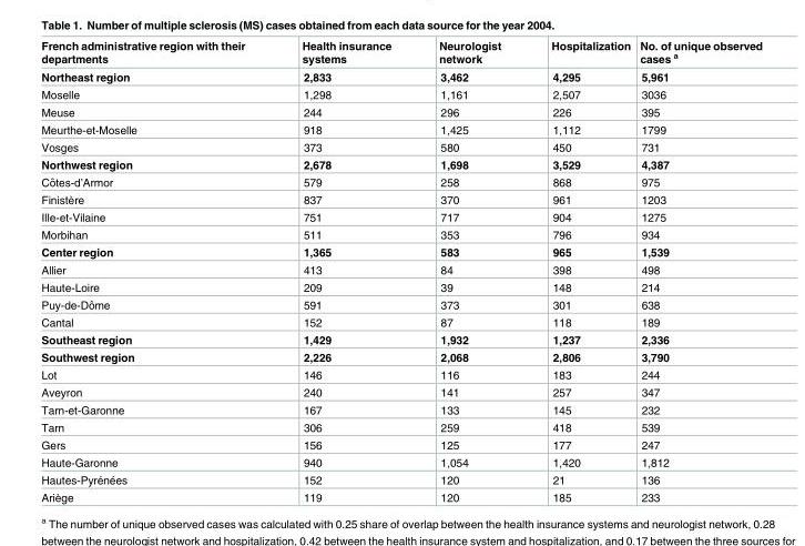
<table><thead><tr><td>French administrative region with their departments</td><td>Health insurance systems</td><td>Neurologist network</td><td>Hospitalization</td><td>No. of unique observed cases <sup>a</sup></td></tr></thead><tbody><tr><td>Northeast region</td><td>2,833</td><td>3,462</td><td>4,295</td><td>5,961</td></tr><tr><td>Moselle</td><td>1,298</td><td>1,161</td><td>2,507</td><td>3036</td></tr><tr><td>Meuse</td><td>244</td><td>296</td><td>226</td><td>395</td></tr><tr><td>Meurthe-et-Moselle</td><td>918</td><td>1,425</td><td>1,112</td><td>1799</td></tr><tr><td>Vosges</td><td>373</td><td>580</td><td>450</td><td>731</td></tr><tr><td>Northwest region</td><td>2,678</td><td>1,698</td><td>3,529</td><td>4,387</td></tr><tr><td>Coˆtes-d’Armor</td><td>579</td><td>258</td><td>868</td><td>975</td></tr><tr><td>Finistère</td><td>837</td><td>370</td><td>961</td><td>1203</td></tr><tr><td>Ille-et-Vilaine</td><td>751</td><td>717</td><td>904</td><td>1275</td></tr><tr><td>Morbihan</td><td>511</td><td>353</td><td>796</td><td>934</td></tr><tr><td>Center region</td><td>1,365</td><td>583</td><td>965</td><td>1,539</td></tr><tr><td>Allier</td><td>413</td><td>84</td><td>398</td><td>498</td></tr><tr><td>Haute-Loire</td><td>209</td><td>39</td><td>148</td><td>214</td></tr><tr><td>Puy-de-Doˆme</td><td>591</td><td>373</td><td>301</td><td>638</td></tr><tr><td>Cantal</td><td>152</td><td>87</td><td>118</td><td>189</td></tr><tr><td>Southeast region</td><td>1,429</td><td>1,932</td><td>1,237</td><td>2,336</td></tr><tr><td>Southwest region</td><td>2,226</td><td>2,068</td><td>2,806</td><td>3,790</td></tr><tr><td>Lot</td><td>146</td><td>116</td><td>183</td><td>244</td></tr><tr><td>Aveyron</td><td>240</td><td>141</td><td>257</td><td>347</td></tr><tr><td>Tarn-et-Garonne</td><td>167</td><td>133</td><td>145</td><td>232</td></tr><tr><td>Tarn</td><td>306</td><td>259</td><td>418</td><td>539</td></tr><tr><td>Gers</td><td>156</td><td>125</td><td>177</td><td>247</td></tr><tr><td>Haute-Garonne</td><td>940</td><td>1,054</td><td>1,420</td><td>1,812</td></tr><tr><td>Hautes-Pyre´ne´es</td><td>152</td><td>120</td><td>21</td><td>136</td></tr><tr><td>Ariège</td><td>119</td><td>120</td><td>185</td><td>233</td></tr></tbody></table>